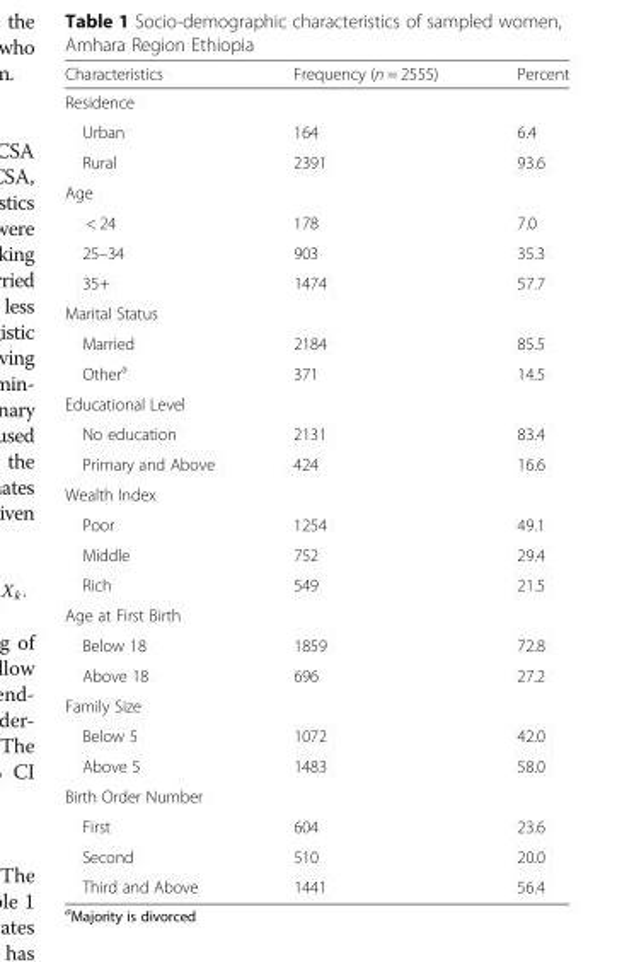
<table><thead><tr><td>Characteristics</td><td>Frequency (n = 2555)</td><td>Percent</td></tr></thead><tbody><tr><td colspan="3">Residence</td></tr><tr><td>Urban</td><td>164</td><td>6.4</td></tr><tr><td>Rural</td><td>2391</td><td>93.6</td></tr><tr><td colspan="3">Age</td></tr><tr><td>&lt; 24</td><td>178</td><td>7.0</td></tr><tr><td>25–34</td><td>903</td><td>35.3</td></tr><tr><td>35+</td><td>1474</td><td>57.7</td></tr><tr><td colspan="3">Marital Status</td></tr><tr><td>Married</td><td>2184</td><td>85.5</td></tr><tr><td>Other<sup>a</sup></td><td>371</td><td>14.5</td></tr><tr><td colspan="3">Educational Level</td></tr><tr><td>No education</td><td>2131</td><td>83.4</td></tr><tr><td>Primary and Above</td><td>424</td><td>16.6</td></tr><tr><td colspan="3">Wealth Index</td></tr><tr><td>Poor</td><td>1254</td><td>49.1</td></tr><tr><td>Middle</td><td>752</td><td>29.4</td></tr><tr><td>Rich</td><td>549</td><td>21.5</td></tr><tr><td colspan="3">Age at First Birth</td></tr><tr><td>Below 18</td><td>1859</td><td>72.8</td></tr><tr><td>Above 18</td><td>696</td><td>27.2</td></tr><tr><td colspan="3">Family Size</td></tr><tr><td>Below 5</td><td>1072</td><td>42.0</td></tr><tr><td>Above 5</td><td>1483</td><td>58.0</td></tr><tr><td colspan="3">Birth Order Number</td></tr><tr><td>First</td><td>604</td><td>23.6</td></tr><tr><td>Second</td><td>510</td><td>20.0</td></tr><tr><td>Third and Above</td><td>1441</td><td>56.4</td></tr></tbody></table>